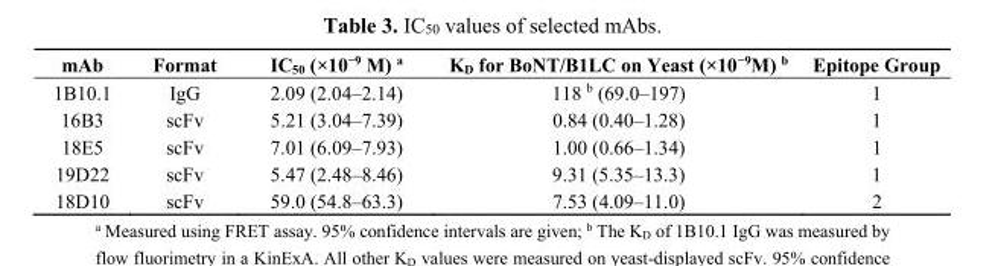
<table><thead><tr><td>mAb</td><td>Format</td><td>IC<sub>50</sub> (×10<sup>−9</sup> M) <sup>a</sup></td><td>K<sub>D</sub> for BoNT/B1LC on Yeast (×10<sup>−9</sup>M) <sup>b</sup></td><td>Epitope Group</td></tr></thead><tbody><tr><td>1B10.1</td><td>IgG</td><td>2.09 (2.04–2.14)</td><td>118 <sup>b</sup> (69.0–197)</td><td>1</td></tr><tr><td>16B3</td><td>scFv</td><td>5.21 (3.04–7.39)</td><td>0.84 (0.40–1.28)</td><td>1</td></tr><tr><td>18E5</td><td>scFv</td><td>7.01 (6.09–7.93)</td><td>1.00 (0.66–1.34)</td><td>1</td></tr><tr><td>19D22</td><td>scFv</td><td>5.47 (2.48–8.46)</td><td>9.31 (5.35–13.3)</td><td>1</td></tr><tr><td>18D10</td><td>scFv</td><td>59.0 (54.8–63.3)</td><td>7.53 (4.09–11.0)</td><td>2</td></tr></tbody></table>